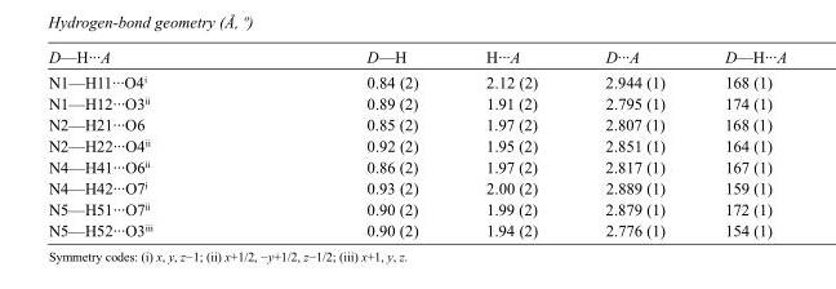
<table><tbody><tr><td>D—H···A</td><td>D—H</td><td>H···A</td><td>D···A</td><td>D—H···A</td></tr><tr><td>N1—H11···O4<sup>i</sup></td><td>0.84 (2)</td><td>2.12 (2)</td><td>2.944 (1)</td><td>168 (1)</td></tr><tr><td>N1—H12···O3<sup>ii</sup></td><td>0.89 (2)</td><td>1.91 (2)</td><td>2.795 (1)</td><td>174 (1)</td></tr><tr><td>N2—H21···O6</td><td>0.85 (2)</td><td>1.97 (2)</td><td>2.807 (1)</td><td>168 (1)</td></tr><tr><td>N2—H22···O4<sup>ii</sup></td><td>0.92 (2)</td><td>1.95 (2)</td><td>2.851 (1)</td><td>164 (1)</td></tr><tr><td>N4—H41···O6<sup>ii</sup></td><td>0.86 (2)</td><td>1.97 (2)</td><td>2.817 (1)</td><td>167 (1)</td></tr><tr><td>N4—H42···O7<sup>i</sup></td><td>0.93 (2)</td><td>2.00 (2)</td><td>2.889 (1)</td><td>159 (1)</td></tr><tr><td>N5—H51···O7<sup>ii</sup></td><td>0.90 (2)</td><td>1.99 (2)</td><td>2.879 (1)</td><td>172 (1)</td></tr><tr><td>N5—H52···O3<sup>iii</sup></td><td>0.90 (2)</td><td>1.94 (2)</td><td>2.776 (1)</td><td>154 (1)</td></tr></tbody></table>